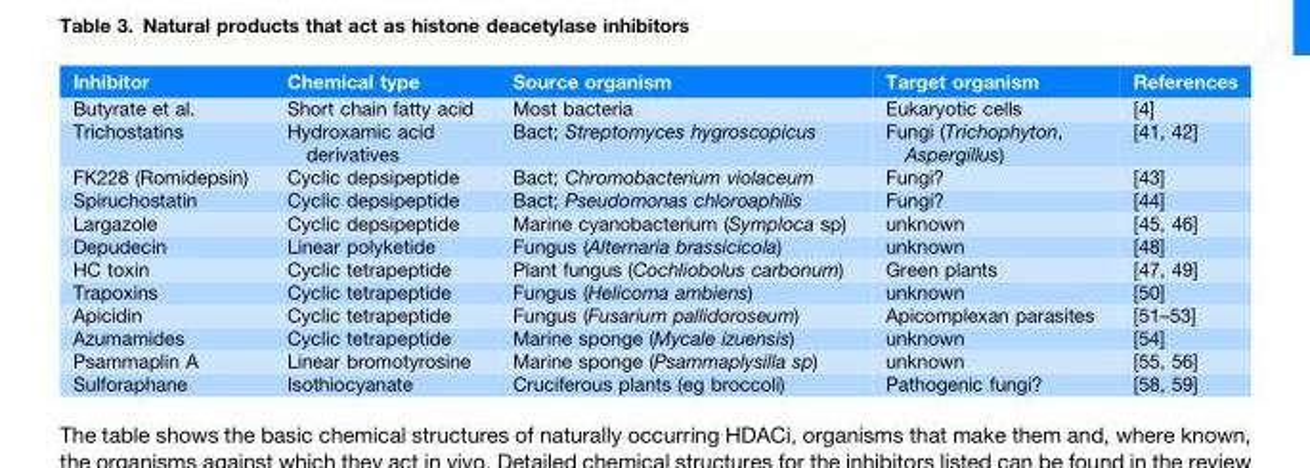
<table><thead><tr><td>Inhibitor</td><td>Chemical type</td><td>Source organism</td><td>Target organism</td><td>References</td></tr></thead><tbody><tr><td>Butyrate et al.</td><td>Short chain fatty acid</td><td>Most bacteria</td><td>Eukaryotic cells</td><td>[4]</td></tr><tr><td>Trichostatins</td><td>Hydroxamic acid derivatives</td><td>Bact; Streptomyces hygroscopicus</td><td>Fungi (Trichophyton, Aspergillus)</td><td>[41, 42]</td></tr><tr><td>FK228 (Romidepsin)</td><td>Cyclic depsipeptide</td><td>Bact; Chromobacterium violaceum</td><td>Fungi?</td><td>[43]</td></tr><tr><td>Spiruchostatin</td><td>Cyclic depsipeptide</td><td>Bact; Pseudomonas chloroaphilis</td><td>Fungi?</td><td>[44]</td></tr><tr><td>Largazole</td><td>Cyclic depsipeptide</td><td>Marine cyanobacterium (Symploca sp)</td><td>unknown</td><td>[45, 46]</td></tr><tr><td>Depudecin</td><td>Linear polyketide</td><td>Fungus (Alternaria brassicicola)</td><td>unknown</td><td>[48]</td></tr><tr><td>HC toxin</td><td>Cyclic tetrapeptide</td><td>Plant fungus (Cochliobolus carbonum)</td><td>Green plants</td><td>[47, 49]</td></tr><tr><td>Trapoxins</td><td>Cyclic tetrapeptide</td><td>Fungus (Helicoma ambiens)</td><td>unknown</td><td>[50]</td></tr><tr><td>Apicidin</td><td>Cyclic tetrapeptide</td><td>Fungus (Fusarium pallidoroseum)</td><td>Apicomplexan parasites</td><td>[51–53]</td></tr><tr><td>Azumamides</td><td>Cyclic tetrapeptide</td><td>Marine sponge (Mycale izuensis)</td><td>unknown</td><td>[54]</td></tr><tr><td>Psammaplin A</td><td>Linear bromotyrosine</td><td>Marine sponge (Psammaplysilla sp)</td><td>unknown</td><td>[55, 56]</td></tr><tr><td>Sulforaphane</td><td>Isothiocyanate</td><td>Cruciferous plants (eg broccoli)</td><td>Pathogenic fungi?</td><td>[58, 59]</td></tr></tbody></table>